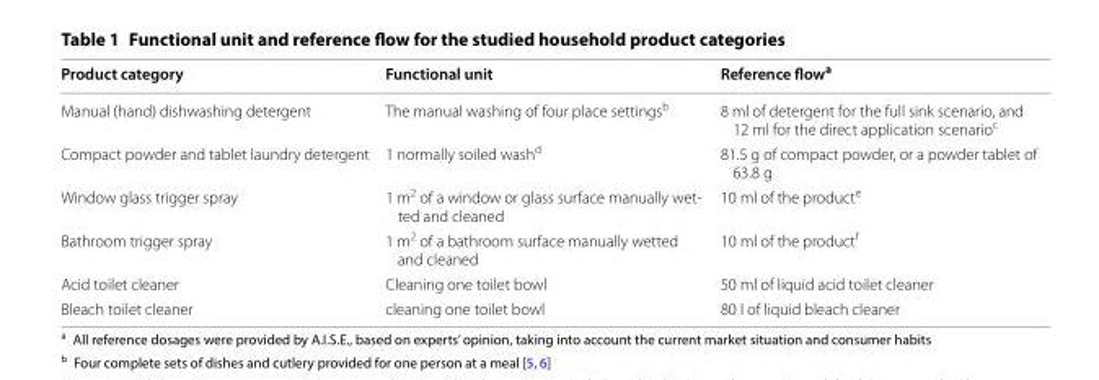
<table><thead><tr><td>Product category</td><td>Functional unit</td><td>Reference flow<sup>a</sup></td></tr></thead><tbody><tr><td>Manual (hand) dishwashing detergent</td><td>The manual washing of four place settings<sup>b</sup></td><td>8 ml of detergent for the full sink scenario, and 12 ml for the direct application scenario<sup>c</sup></td></tr><tr><td>Compact powder and tablet laundry detergent</td><td>1 normally soiled wash<sup>d</sup></td><td>81.5 g of compact powder, or a powder tablet of 63.8 g</td></tr><tr><td>Window glass trigger spray</td><td>1 m2 of a window or glass surface manually wet- ted and cleaned</td><td>10 ml of the product<sup>e</sup></td></tr><tr><td>Bathroom trigger spray</td><td>1 m<sup>2</sup> of a bathroom surface manually wetted and cleaned</td><td>10 ml of the product<sup>f</sup></td></tr><tr><td>Acid toilet cleaner</td><td>Cleaning one toilet bowl</td><td>50 ml of liquid acid toilet cleaner</td></tr><tr><td>Bleach toilet cleaner</td><td>cleaning one toilet bowl</td><td>80 l of liquid bleach cleaner</td></tr></tbody></table>